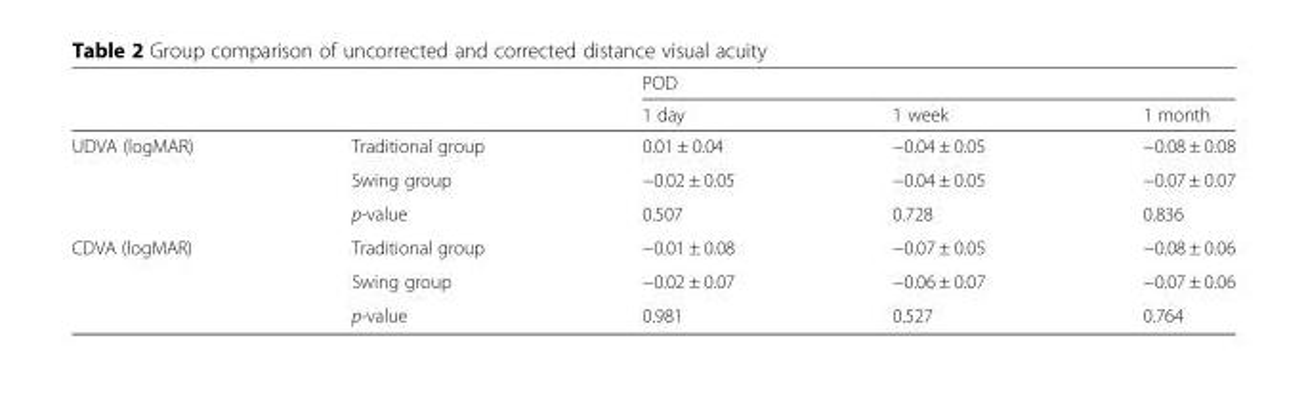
<table><thead><tr><td rowspan="2"></td><td rowspan="2"></td><td colspan="3">POD</td></tr><tr><td>1 day</td><td>1 week</td><td>1 month</td></tr></thead><tbody><tr><td rowspan="3">UDVA (logMAR)</td><td>Traditional group</td><td>0.01 ± 0.04</td><td>−0.04 ± 0.05</td><td>−0.08 ± 0.08</td></tr><tr><td>Swing group</td><td>−0.02 ± 0.05</td><td>−0.04 ± 0.05</td><td>−0.07 ± 0.07</td></tr><tr><td>p-value</td><td>0.507</td><td>0.728</td><td>0.836</td></tr><tr><td rowspan="3">CDVA (logMAR)</td><td>Traditional group</td><td>−0.01 ± 0.08</td><td>−0.07 ± 0.05</td><td>−0.08 ± 0.06</td></tr><tr><td>Swing group</td><td>−0.02 ± 0.07</td><td>−0.06 ± 0.07</td><td>−0.07 ± 0.06</td></tr><tr><td>p-value</td><td>0.981</td><td>0.527</td><td>0.764</td></tr></tbody></table>